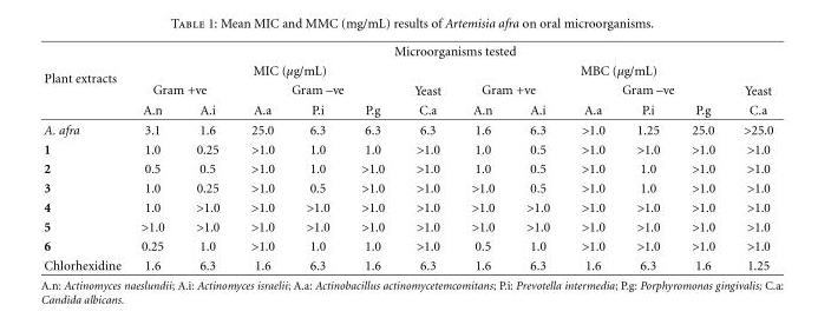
<table><thead><tr><td rowspan="4">Plant extracts</td><td colspan="12">Microorganisms tested</td></tr><tr><td colspan="6">MIC (μg/mL)</td><td colspan="6">MBC (μg/mL)</td></tr><tr><td colspan="2">Gram +ve</td><td colspan="3">Gram –ve</td><td rowspan="2">Yeast C.a</td><td colspan="2">Gram +ve</td><td colspan="3">Gram –ve</td><td rowspan="2">Yeast C.a</td></tr><tr><td>A.n</td><td>A.i</td><td>A.a</td><td>P.i</td><td>P.g</td><td>A.n</td><td>A.i</td><td>A.a</td><td>P.i</td><td>P.g</td></tr></thead><tbody><tr><td>A. afra</td><td>3.1</td><td>1.6</td><td>25.0</td><td>6.3</td><td>6.3</td><td>6.3</td><td>1.6</td><td>6.3</td><td>&gt;1.0</td><td>1.25</td><td>25.0</td><td>&gt;25.0</td></tr><tr><td>1</td><td>1.0</td><td>0.25</td><td>&gt;1.0</td><td>1.0</td><td>1.0</td><td>&gt;1.0</td><td>1.0</td><td>0.5</td><td>&gt;1.0</td><td>&gt;1.0</td><td>&gt;1.0</td><td>&gt;1.0</td></tr><tr><td>2</td><td>0.5</td><td>0.5</td><td>&gt;1.0</td><td>1.0</td><td>&gt;1.0</td><td>&gt;1.0</td><td>1.0</td><td>0.5</td><td>&gt;1.0</td><td>1.0</td><td>&gt;1.0</td><td>&gt;1.0</td></tr><tr><td>3</td><td>1.0</td><td>0.25</td><td>&gt;1.0</td><td>0.5</td><td>&gt;1.0</td><td>&gt;1.0</td><td>&gt;1.0</td><td>0.5</td><td>&gt;1.0</td><td>1.0</td><td>&gt;1.0</td><td>&gt;1.0</td></tr><tr><td>4</td><td>1.0</td><td>&gt;1.0</td><td>&gt;1.0</td><td>&gt;1.0</td><td>&gt;1.0</td><td>&gt;1.0</td><td>&gt;1.0</td><td>&gt;1.0</td><td>&gt;1.0</td><td>&gt;1.0</td><td>&gt;1.0</td><td>&gt;1.0</td></tr><tr><td>5</td><td>&gt;1.0</td><td>&gt;1.0</td><td>&gt;1.0</td><td>&gt;1.0</td><td>&gt;1.0</td><td>&gt;1.0</td><td>&gt;1.0</td><td>&gt;1.0</td><td>&gt;1.0</td><td>&gt;1.0</td><td>&gt;1.0</td><td>&gt;1.0</td></tr><tr><td>6</td><td>0.25</td><td>1.0</td><td>&gt;1.0</td><td>1.0</td><td>1.0</td><td>&gt;1.0</td><td>0.5</td><td>1.0</td><td>&gt;1.0</td><td>&gt;1.0</td><td>&gt;1.0</td><td>&gt;1.0</td></tr><tr><td>Chlorhexidine</td><td>1.6</td><td>6.3</td><td>1.6</td><td>6.3</td><td>1.6</td><td>6.3</td><td>1.6</td><td>6.3</td><td>1.6</td><td>6.3</td><td>1.6</td><td>1.25</td></tr></tbody></table>